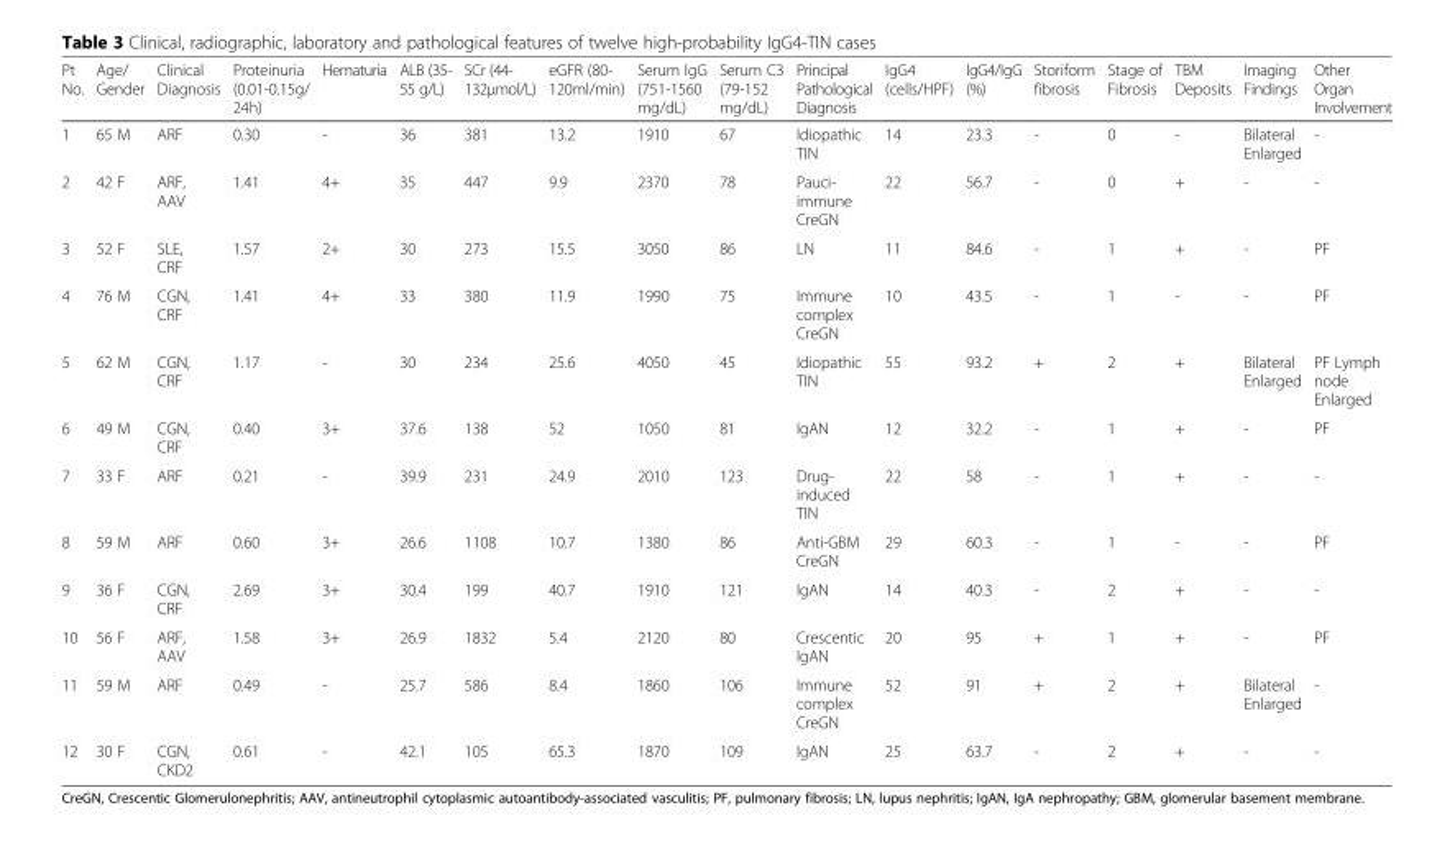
<table><thead><tr><td>Pt No.</td><td>Age/ Gender</td><td>Clinical Diagnosis</td><td>Proteinuria (0.01-0.15g/ 24h)</td><td>Hematuria</td><td>ALB (35- 55 g/L)</td><td>SCr (44- 132μmol/L)</td><td>eGFR (80- 120ml/min)</td><td>Serum IgG (751-1560 mg/dL)</td><td>Serum C3 (79-152 mg/dL)</td><td>Principal Pathological Diagnosis</td><td>IgG4 (cells/HPF)</td><td>IgG4/IgG (%)</td><td>Storiform fibrosis</td><td>Stage of Fibrosis</td><td>TBM Deposits</td><td>Imaging Findings</td><td>Other Organ Involvement</td></tr></thead><tbody><tr><td>1</td><td>65 M</td><td>ARF</td><td>0.30</td><td>-</td><td>36</td><td>381</td><td>13.2</td><td>1910</td><td>67</td><td>Idiopathic TIN</td><td>14</td><td>23.3</td><td>-</td><td>0</td><td>-</td><td>Bilateral Enlarged</td><td>-</td></tr><tr><td>2</td><td>42 F</td><td>ARF, AAV</td><td>1.41</td><td>4+</td><td>35</td><td>447</td><td>9.9</td><td>2370</td><td>78</td><td>Pauci- immune CreGN</td><td>22</td><td>56.7</td><td>-</td><td>0</td><td>+</td><td>-</td><td>-</td></tr><tr><td>3</td><td>52 F</td><td>SLE, CRF</td><td>1.57</td><td>2+</td><td>30</td><td>273</td><td>15.5</td><td>3050</td><td>86</td><td>LN</td><td>11</td><td>84.6</td><td>-</td><td>1</td><td>+</td><td>-</td><td>PF</td></tr><tr><td>4</td><td>76 M</td><td>CGN, CRF</td><td>1.41</td><td>4+</td><td>33</td><td>380</td><td>11.9</td><td>1990</td><td>75</td><td>Immune complex CreGN</td><td>10</td><td>43.5</td><td>-</td><td>1</td><td>-</td><td>-</td><td>PF</td></tr><tr><td>5</td><td>62 M</td><td>CGN, CRF</td><td>1.17</td><td>-</td><td>30</td><td>234</td><td>25.6</td><td>4050</td><td>45</td><td>Idiopathic TIN</td><td>55</td><td>93.2</td><td>+</td><td>2</td><td>+</td><td>Bilateral Enlarged</td><td>PF Lymph node Enlarged</td></tr><tr><td>6</td><td>49 M</td><td>CGN, CRF</td><td>0.40</td><td>3+</td><td>37.6</td><td>138</td><td>52</td><td>1050</td><td>81</td><td>IgAN</td><td>12</td><td>32.2</td><td>-</td><td>1</td><td>+</td><td>-</td><td>PF</td></tr><tr><td>7</td><td>33 F</td><td>ARF</td><td>0.21</td><td>-</td><td>39.9</td><td>231</td><td>24.9</td><td>2010</td><td>123</td><td>Drug- induced TIN</td><td>22</td><td>58</td><td>-</td><td>1</td><td>+</td><td>-</td><td>-</td></tr><tr><td>8</td><td>59 M</td><td>ARF</td><td>0.60</td><td>3+</td><td>26.6</td><td>1108</td><td>10.7</td><td>1380</td><td>86</td><td>Anti-GBM CreGN</td><td>29</td><td>60.3</td><td>-</td><td>1</td><td>-</td><td>-</td><td>PF</td></tr><tr><td>9</td><td>36 F</td><td>CGN, CRF</td><td>2.69</td><td>3+</td><td>30.4</td><td>199</td><td>40.7</td><td>1910</td><td>121</td><td>IgAN</td><td>14</td><td>40.3</td><td>-</td><td>2</td><td>+</td><td>-</td><td>-</td></tr><tr><td>10</td><td>56 F</td><td>ARF, AAV</td><td>1.58</td><td>3+</td><td>26.9</td><td>1832</td><td>5.4</td><td>2120</td><td>80</td><td>Crescentic IgAN</td><td>20</td><td>95</td><td>+</td><td>1</td><td>+</td><td>-</td><td>PF</td></tr><tr><td>11</td><td>59 M</td><td>ARF</td><td>0.49</td><td>-</td><td>25.7</td><td>586</td><td>8.4</td><td>1860</td><td>106</td><td>Immune complex CreGN</td><td>52</td><td>91</td><td>+</td><td>2</td><td>+</td><td>Bilateral Enlarged</td><td>-</td></tr><tr><td>12</td><td>30 F</td><td>CGN, CKD2</td><td>0.61</td><td>-</td><td>42.1</td><td>105</td><td>65.3</td><td>1870</td><td>109</td><td>IgAN</td><td>25</td><td>63.7</td><td>-</td><td>2</td><td>+</td><td>-</td><td>-</td></tr></tbody></table>